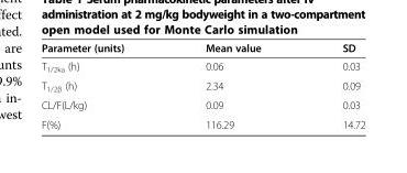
<table><thead><tr><td>Parameter (units)</td><td>Mean value</td><td>SD</td></tr></thead><tbody><tr><td>T<sub>1/2ka</sub> (h)</td><td>0.06</td><td>0.03</td></tr><tr><td>T<sub>1/2β</sub> (h)</td><td>2.34</td><td>0.09</td></tr><tr><td>CL/F(L/kg)</td><td>0.09</td><td>0.03</td></tr><tr><td>F(%)</td><td>116.29</td><td>14.72</td></tr></tbody></table>